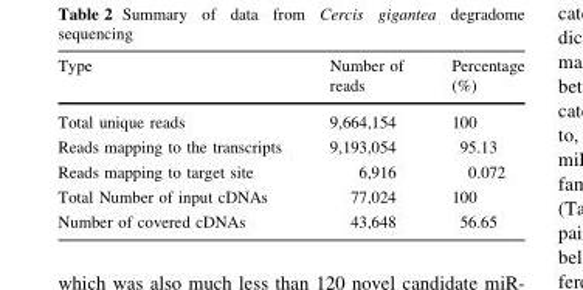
<table><thead><tr><td>Type</td><td>Number of reads</td><td>Percentage (%)</td></tr></thead><tbody><tr><td>Total unique reads</td><td>9,664,154</td><td>100</td></tr><tr><td>Reads mapping to the transcripts</td><td>9,193,054</td><td>95.13</td></tr><tr><td>Reads mapping to target site</td><td>6,916</td><td>0.072</td></tr><tr><td>Total Number of input cDNAs</td><td>77,024</td><td>100</td></tr><tr><td>Number of covered cDNAs</td><td>43,648</td><td>56.65</td></tr></tbody></table>